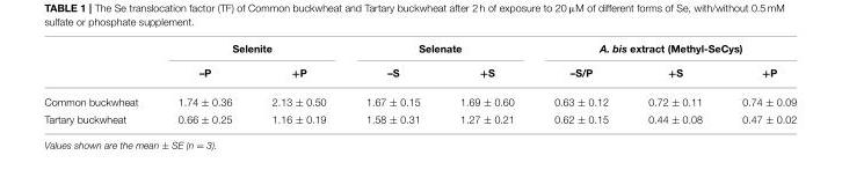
<table><thead><tr><td rowspan="2"></td><td colspan="2">Selenite</td><td colspan="2">Selenate</td><td colspan="3">A. bis extract (Methyl-SeCys)</td></tr><tr><td>–P</td><td>+P</td><td>–S</td><td>+S</td><td>–S/P</td><td>+S</td><td>+P</td></tr></thead><tbody><tr><td>Common buckwheat</td><td>1.74 ± 0.36</td><td>2.13 ± 0.50</td><td>1.67 ± 0.15</td><td>1.69 ± 0.60</td><td>0.63 ± 0.12</td><td>0.72 ± 0.11</td><td>0.74 ± 0.09</td></tr><tr><td>Tartary buckwheat</td><td>0.66 ± 0.25</td><td>1.16 ± 0.19</td><td>1.58 ± 0.31</td><td>1.27 ± 0.21</td><td>0.62 ± 0.15</td><td>0.44 ± 0.08</td><td>0.47 ± 0.02</td></tr></tbody></table>